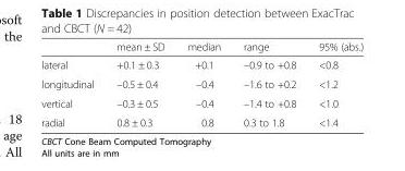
<table><thead><tr><td></td><td>mean ± SD</td><td>median</td><td>range</td><td>95% (abs.)</td></tr></thead><tbody><tr><td>lateral</td><td>+0.1 ± 0.3</td><td>+0.1</td><td>–0.9 to +0.8</td><td>&lt;0.8</td></tr><tr><td>longitudinal</td><td>–0.5 ± 0.4</td><td>–0.4</td><td>–1.6 to +0.2</td><td>&lt;1.2</td></tr><tr><td>vertical</td><td>–0.3 ± 0.5</td><td>–0.4</td><td>–1.4 to +0.8</td><td>&lt;1.0</td></tr><tr><td>radial</td><td>0.8 ± 0.3</td><td>0.8</td><td>0.3 to 1.8</td><td>&lt;1.4</td></tr></tbody></table>